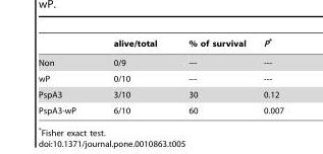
<table><thead><tr><td></td><td>alive/total</td><td>% of survival</td><td>P*</td></tr></thead><tbody><tr><td>Non</td><td>0/9</td><td>---</td><td>---</td></tr><tr><td>wP</td><td>0/10</td><td>---</td><td>---</td></tr><tr><td>PspA3</td><td>3/10</td><td>30</td><td>0.12</td></tr><tr><td>PspA3-wP</td><td>6/10</td><td>60</td><td>0.007</td></tr></tbody></table>